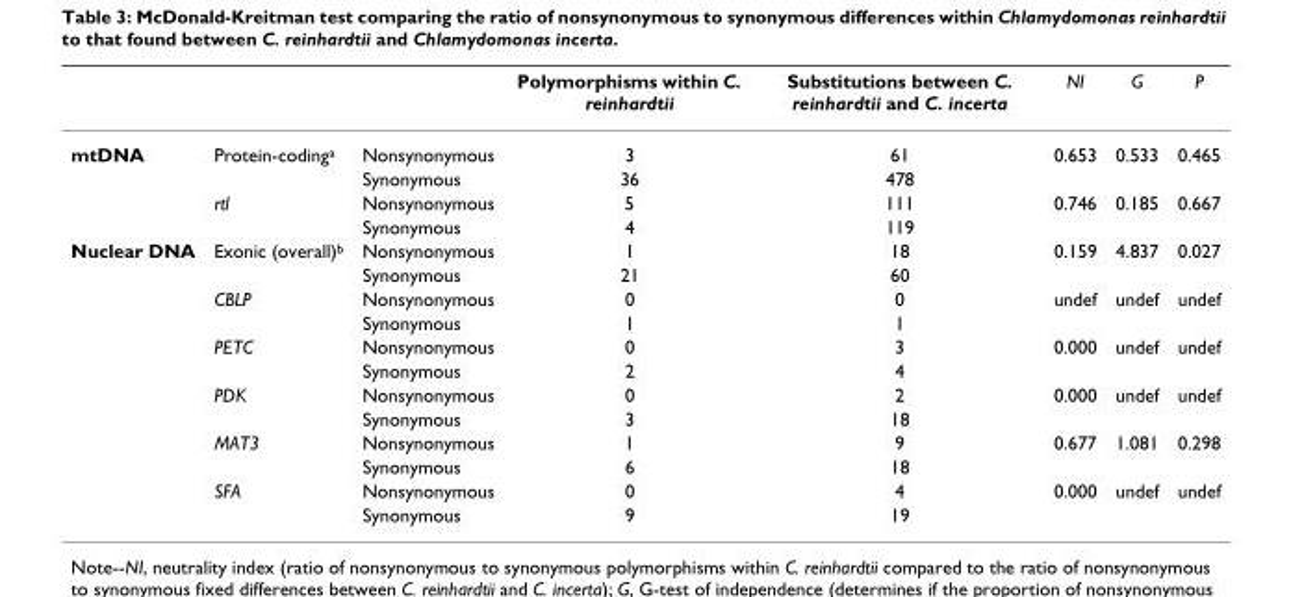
<table><thead><tr><td></td><td></td><td></td><td>Polymorphisms within C. reinhardtii</td><td>Substitutions between C. reinhardtii and C. incerta</td><td>NI</td><td>G</td><td>P</td></tr></thead><tbody><tr><td rowspan="4">mtDNA</td><td>Protein-coding<sup>a</sup></td><td>Nonsynonymous</td><td>3</td><td>61</td><td>0.653</td><td>0.533</td><td>0.465</td></tr><tr><td></td><td>Synonymous</td><td>36</td><td>478</td><td></td><td></td><td></td></tr><tr><td>rtl</td><td>Nonsynonymous</td><td>5</td><td>111</td><td>0.746</td><td>0.185</td><td>0.667</td></tr><tr><td></td><td>Synonymous</td><td>4</td><td>119</td><td></td><td></td><td></td></tr><tr><td rowspan="12">Nuclear DNA</td><td>Exonic (overall)<sup>b</sup></td><td>Nonsynonymous</td><td>1</td><td>18</td><td>0.159</td><td>4.837</td><td>0.027</td></tr><tr><td></td><td>Synonymous</td><td>21</td><td>60</td><td></td><td></td><td></td></tr><tr><td>CBLP</td><td>Nonsynonymous</td><td>0</td><td>0</td><td>undef</td><td>undef</td><td>undef</td></tr><tr><td></td><td>Synonymous</td><td>1</td><td>1</td><td></td><td></td><td></td></tr><tr><td>PETC</td><td>Nonsynonymous</td><td>0</td><td>3</td><td>0.000</td><td>undef</td><td>undef</td></tr><tr><td></td><td>Synonymous</td><td>2</td><td>4</td><td></td><td></td><td></td></tr><tr><td>PDK</td><td>Nonsynonymous</td><td>0</td><td>2</td><td>0.000</td><td>undef</td><td>undef</td></tr><tr><td></td><td>Synonymous</td><td>3</td><td>18</td><td></td><td></td><td></td></tr><tr><td>MAT3</td><td>Nonsynonymous</td><td>1</td><td>9</td><td>0.677</td><td>1.081</td><td>0.298</td></tr><tr><td></td><td>Synonymous</td><td>6</td><td>18</td><td></td><td></td><td></td></tr><tr><td>SFA</td><td>Nonsynonymous</td><td>0</td><td>4</td><td>0.000</td><td>undef</td><td>undef</td></tr><tr><td></td><td>Synonymous</td><td>9</td><td>19</td><td></td><td></td><td></td></tr></tbody></table>